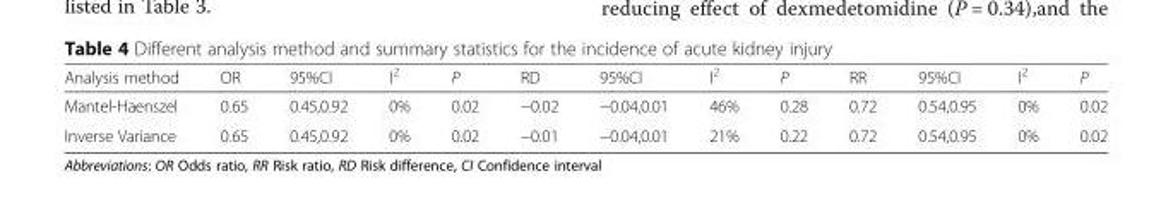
<table><thead><tr><td>Analysis method</td><td>OR</td><td>95%CI</td><td>I<sup>2</sup></td><td>P</td><td>RD</td><td>95%CI</td><td>I<sup>2</sup></td><td>P</td><td>RR</td><td>95%CI</td><td>I<sup>2</sup></td><td>P</td></tr></thead><tbody><tr><td>Mantel-Haenszel</td><td>0.65</td><td>0.45,0.92</td><td>0%</td><td>0.02</td><td>−0.02</td><td>−0.04,0.01</td><td>46%</td><td>0.28</td><td>0.72</td><td>0.54,0.95</td><td>0%</td><td>0.02</td></tr><tr><td>Inverse Variance</td><td>0.65</td><td>0.45,0.92</td><td>0%</td><td>0.02</td><td>−0.01</td><td>−0.04,0.01</td><td>21%</td><td>0.22</td><td>0.72</td><td>0.54,0.95</td><td>0%</td><td>0.02</td></tr></tbody></table>